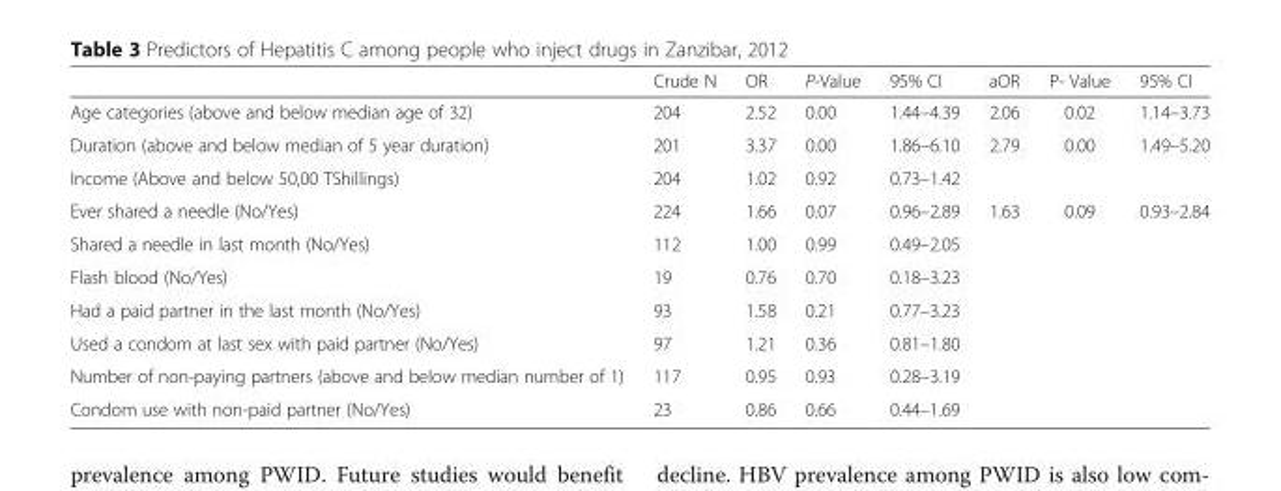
<table><thead><tr><td></td><td>Crude N</td><td>OR</td><td>P-Value</td><td>95% CI</td><td>aOR</td><td>P- Value</td><td>95% CI</td></tr></thead><tbody><tr><td>Age categories (above and below median age of 32)</td><td>204</td><td>2.52</td><td>0.00</td><td>1.44–4.39</td><td>2.06</td><td>0.02</td><td>1.14–3.73</td></tr><tr><td>Duration (above and below median of 5 year duration)</td><td>201</td><td>3.37</td><td>0.00</td><td>1.86–6.10</td><td>2.79</td><td>0.00</td><td>1.49–5.20</td></tr><tr><td>Income (Above and below 50,00 TShillings)</td><td>204</td><td>1.02</td><td>0.92</td><td>0.73–1.42</td><td></td><td></td><td></td></tr><tr><td>Ever shared a needle (No/Yes)</td><td>224</td><td>1.66</td><td>0.07</td><td>0.96–2.89</td><td>1.63</td><td>0.09</td><td>0.93–2.84</td></tr><tr><td>Shared a needle in last month (No/Yes)</td><td>112</td><td>1.00</td><td>0.99</td><td>0.49–2.05</td><td></td><td></td><td></td></tr><tr><td>Flash blood (No/Yes)</td><td>19</td><td>0.76</td><td>0.70</td><td>0.18–3.23</td><td></td><td></td><td></td></tr><tr><td>Had a paid partner in the last month (No/Yes)</td><td>93</td><td>1.58</td><td>0.21</td><td>0.77–3.23</td><td></td><td></td><td></td></tr><tr><td>Used a condom at last sex with paid partner (No/Yes)</td><td>97</td><td>1.21</td><td>0.36</td><td>0.81–1.80</td><td></td><td></td><td></td></tr><tr><td>Number of non-paying partners (above and below median number of 1)</td><td>117</td><td>0.95</td><td>0.93</td><td>0.28–3.19</td><td></td><td></td><td></td></tr><tr><td>Condom use with non-paid partner (No/Yes)</td><td>23</td><td>0.86</td><td>0.66</td><td>0.44–1.69</td><td></td><td></td><td></td></tr></tbody></table>